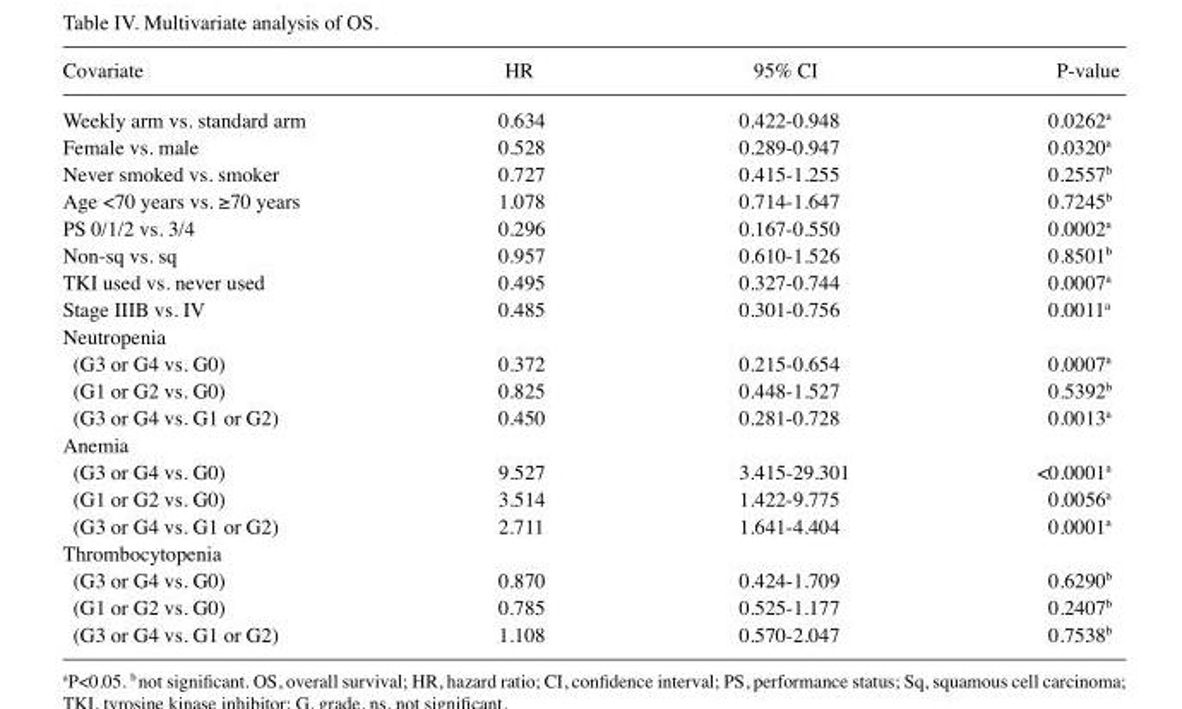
<table><thead><tr><td>Covariate</td><td>HR</td><td>95% CI</td><td>P-value</td></tr></thead><tbody><tr><td>Weekly arm vs. standard arm</td><td>0.634</td><td>0.422-0.948</td><td>0.0262<sup>a</sup></td></tr><tr><td>Female vs. male</td><td>0.528</td><td>0.289-0.947</td><td>0.0320<sup>a</sup></td></tr><tr><td>Never smoked vs. smoker</td><td>0.727</td><td>0.415-1.255</td><td>0.2557<sup>b</sup></td></tr><tr><td>Age &lt;70 years vs. ≥70 years</td><td>1.078</td><td>0.714-1.647</td><td>0.7245<sup>b</sup></td></tr><tr><td>PS 0/1/2 vs. 3/4</td><td>0.296</td><td>0.167-0.550</td><td>0.0002<sup>a</sup></td></tr><tr><td>Non-sq vs. sq</td><td>0.957</td><td>0.610-1.526</td><td>0.8501<sup>b</sup></td></tr><tr><td>TKI used vs. never used</td><td>0.495</td><td>0.327-0.744</td><td>0.0007<sup>a</sup></td></tr><tr><td>Stage IIIB vs. IV</td><td>0.485</td><td>0.301-0.756</td><td>0.0011<sup>a</sup></td></tr><tr><td colspan="4">Neutropenia</td></tr><tr><td>(G3 or G4 vs. G0)</td><td>0.372</td><td>0.215-0.654</td><td>0.0007<sup>a</sup></td></tr><tr><td>(G1 or G2 vs. G0)</td><td>0.825</td><td>0.448-1.527</td><td>0.5392<sup>b</sup></td></tr><tr><td>(G3 or G4 vs. G1 or G2)</td><td>0.450</td><td>0.281-0.728</td><td>0.0013<sup>a</sup></td></tr><tr><td colspan="4">Anemia</td></tr><tr><td>(G3 or G4 vs. G0)</td><td>9.527</td><td>3.415-29.301</td><td>&lt;0.0001<sup>a</sup></td></tr><tr><td>(G1 or G2 vs. G0)</td><td>3.514</td><td>1.422-9.775</td><td>0.0056<sup>a</sup></td></tr><tr><td>(G3 or G4 vs. G1 or G2)</td><td>2.711</td><td>1.641-4.404</td><td>0.0001<sup>a</sup></td></tr><tr><td colspan="4">Thrombocytopenia</td></tr><tr><td>(G3 or G4 vs. G0)</td><td>0.870</td><td>0.424-1.709</td><td>0.6290<sup>b</sup></td></tr><tr><td>(G1 or G2 vs. G0)</td><td>0.785</td><td>0.525-1.177</td><td>0.2407<sup>b</sup></td></tr><tr><td>(G3 or G4 vs. G1 or G2)</td><td>1.108</td><td>0.570-2.047</td><td>0.7538<sup>b</sup></td></tr></tbody></table>